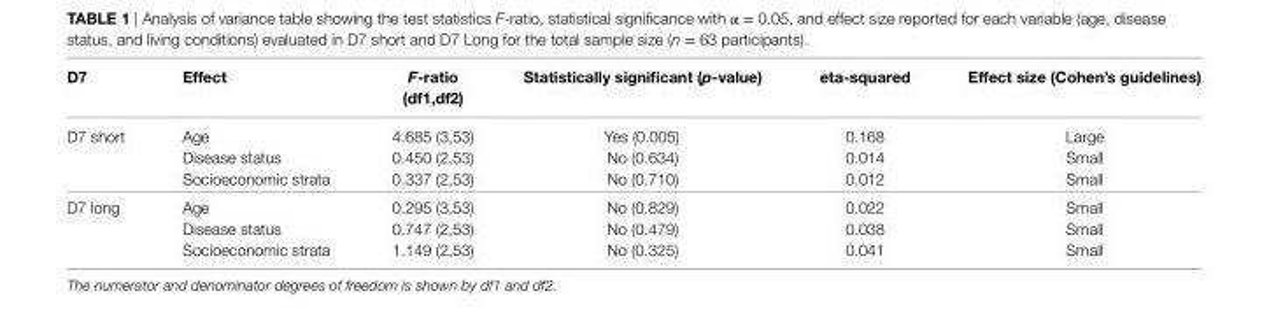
<table><thead><tr><td>D7</td><td>effect</td><td>F-ratio (df1,df2)</td><td>statistically significant (p-value)</td><td>eta-squared</td><td>effect size (cohen’s guidelines)</td></tr></thead><tbody><tr><td rowspan="3">D7 short</td><td>Age</td><td>4.685 (3,53)</td><td>Yes (0.005)</td><td>0.168</td><td>Large</td></tr><tr><td>Disease status</td><td>0.450 (2,53)</td><td>No (0.634)</td><td>0.014</td><td>Small</td></tr><tr><td>Socioeconomic strata</td><td>0.337 (2,53)</td><td>No (0.710)</td><td>0.012</td><td>Small</td></tr><tr><td rowspan="3">D7 long</td><td>Age</td><td>0.295 (3,53)</td><td>No (0.829)</td><td>0.022</td><td>Small</td></tr><tr><td>Disease status</td><td>0.747 (2,53)</td><td>No (0.479)</td><td>0.038</td><td>Small</td></tr><tr><td>Socioeconomic strata</td><td>1.149 (2,53)</td><td>No (0.325)</td><td>0.041</td><td>Small</td></tr></tbody></table>